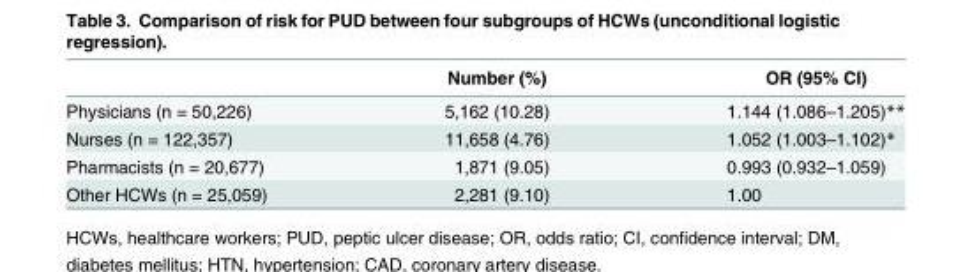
<table><thead><tr><td></td><td>Number (%)</td><td>OR (95% CI)</td></tr></thead><tbody><tr><td>Physicians (n = 50,226)</td><td>5,162 (10.28)</td><td>1.144 (1.086–1.205)**</td></tr><tr><td>Nurses (n = 122,357)</td><td>11,658 (4.76)</td><td>1.052 (1.003–1.102)*</td></tr><tr><td>Pharmacists (n = 20,677)</td><td>1,871 (9.05)</td><td>0.993 (0.932–1.059)</td></tr><tr><td>Other HCWs (n = 25,059)</td><td>2,281 (9.10)</td><td>1.00</td></tr></tbody></table>